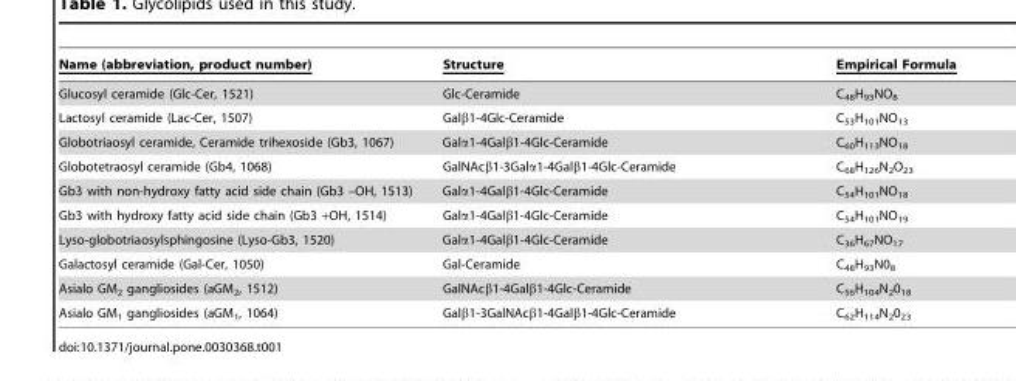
<table><thead><tr><td>Name (abbreviation, product number)</td><td>Structure</td><td>Empirical Formula</td></tr></thead><tbody><tr><td>Glucosyl ceramide (Glc-Cer, 1521)</td><td>Glc-Ceramide</td><td>C<sub>48</sub>H<sub>93</sub>NO<sub>8</sub></td></tr><tr><td>Lactosyl ceramide (Lac-Cer, 1507)</td><td>Galβ1-4Glc-Ceramide</td><td>C<sub>53</sub>H<sub>101</sub>NO<sub>13</sub></td></tr><tr><td>Globotriaosyl ceramide, Ceramide trihexoside (Gb3, 1067)</td><td>Galα1-4Galβ1-4Glc-Ceramide</td><td>C<sub>60</sub>H<sub>113</sub>NO<sub>18</sub></td></tr><tr><td>Globotetraosyl ceramide (Gb4, 1068)</td><td>GalNAcβ1-3Galα1-4Galβ1-4Glc-Ceramide</td><td>C<sub>68</sub>H<sub>126</sub>N<sub>2</sub>O<sub>23</sub></td></tr><tr><td>Gb3 with non-hydroxy fatty acid side chain (Gb3 –OH, 1513)</td><td>Galα1-4Galβ1-4Glc-Ceramide</td><td>C<sub>54</sub>H<sub>101</sub>NO<sub>18</sub></td></tr><tr><td>Gb3 with hydroxy fatty acid side chain (Gb3 +OH, 1514)</td><td>Galα1-4Galβ1-4Glc-Ceramide</td><td>C<sub>54</sub>H<sub>101</sub>NO<sub>19</sub></td></tr><tr><td>Lyso-globotriaosylsphingosine (Lyso-Gb3, 1520)</td><td>Galα1-4Galβ1-4Glc-Ceramide</td><td>C<sub>36</sub>H<sub>67</sub>NO<sub>17</sub></td></tr><tr><td>Galactosyl ceramide (Gal-Cer, 1050)</td><td>Gal-Ceramide</td><td>C<sub>48</sub>H<sub>93</sub>N0<sub>8</sub></td></tr><tr><td>Asialo GM<sub>2</sub> gangliosides (aGM<sub>2</sub>, 1512)</td><td>GalNAcβ1-4Galβ1-4Glc-Ceramide</td><td>C<sub>56</sub>H<sub>104</sub>N<sub>2</sub>0<sub>18</sub></td></tr><tr><td>Asialo GM<sub>1</sub> gangliosides (aGM<sub>1</sub>, 1064)</td><td>Galβ1-3GalNAcβ1-4Galβ1-4Glc-Ceramide</td><td>C<sub>62</sub>H<sub>114</sub>N<sub>2</sub>0<sub>23</sub></td></tr></tbody></table>